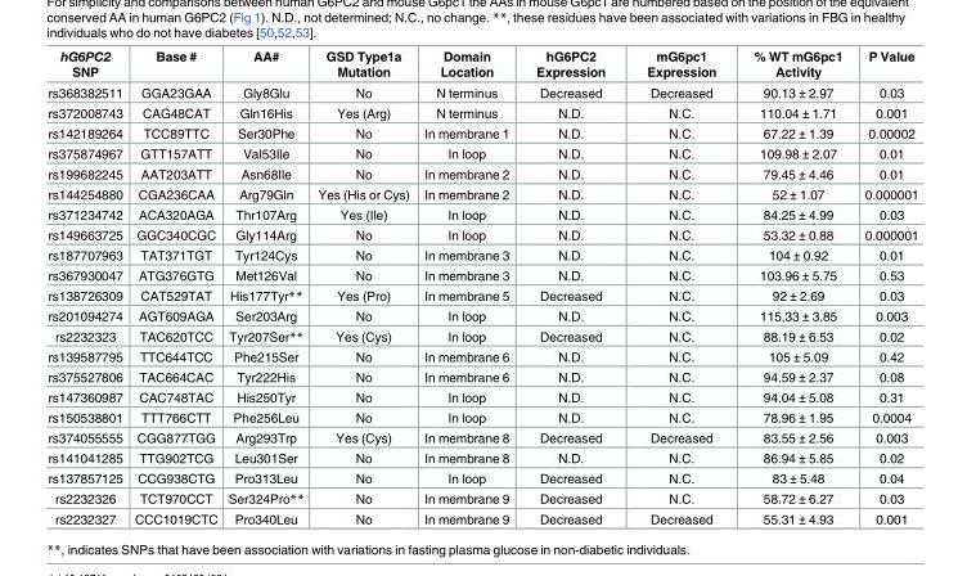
<table><thead><tr><td>hG6PC2 SNP</td><td>Base #</td><td>AA#</td><td>GSD Type1a Mutation</td><td>Domain Location</td><td>hG6PC2 Expression</td><td>mG6pc1 Expression</td><td>% WT mG6pc1 Activity</td><td>P Value</td></tr></thead><tbody><tr><td>rs368382511</td><td>GGA23GAA</td><td>Gly8Glu</td><td>No</td><td>N terminus</td><td>Decreased</td><td>Decreased</td><td>90.13 ± 2.97</td><td>0.03</td></tr><tr><td>rs372008743</td><td>CAG48CAT</td><td>Gln16His</td><td>Yes (Arg)</td><td>N terminus</td><td>N.D.</td><td>N.C.</td><td>110.04 ± 1.71</td><td>0.001</td></tr><tr><td>rs142189264</td><td>TCC89TTC</td><td>Ser30Phe</td><td>No</td><td>In membrane 1</td><td>N.D.</td><td>N.C.</td><td>67.22 ± 1.39</td><td>0.00002</td></tr><tr><td>rs375874967</td><td>GTT157ATT</td><td>Val53Ile</td><td>No</td><td>In loop</td><td>N.D.</td><td>N.C.</td><td>109.98 ± 2.07</td><td>0.01</td></tr><tr><td>rs199682245</td><td>AAT203ATT</td><td>Asn68Ile</td><td>No</td><td>In membrane 2</td><td>N.D.</td><td>N.C.</td><td>79.45 ± 4.46</td><td>0.01</td></tr><tr><td>rs144254880</td><td>CGA236CAA</td><td>Arg79Gln</td><td>Yes (His or Cys)</td><td>In membrane 2</td><td>N.D.</td><td>N.C.</td><td>52 ± 1.07</td><td>0.000001</td></tr><tr><td>rs371234742</td><td>ACA320AGA</td><td>Thr107Arg</td><td>Yes (Ile)</td><td>In loop</td><td>N.D.</td><td>N.C.</td><td>84.25 ± 4.99</td><td>0.03</td></tr><tr><td>rs149663725</td><td>GGC340CGC</td><td>Gly114Arg</td><td>No</td><td>In loop</td><td>N.D.</td><td>N.C.</td><td>53.32 ± 0.88</td><td>0.000001</td></tr><tr><td>rs187707963</td><td>TAT371TGT</td><td>Tyr124Cys</td><td>No</td><td>In membrane 3</td><td>N.D.</td><td>N.C.</td><td>104 ± 0.92</td><td>0.01</td></tr><tr><td>rs367930047</td><td>ATG376GTG</td><td>Met126Val</td><td>No</td><td>In membrane 3</td><td>N.D.</td><td>N.C.</td><td>103.96 ± 5.75</td><td>0.53</td></tr><tr><td>rs138726309</td><td>CAT529TAT</td><td>His177Tyr**</td><td>Yes (Pro)</td><td>In membrane 5</td><td>Decreased</td><td>N.C.</td><td>92 ± 2.69</td><td>0.03</td></tr><tr><td>rs201094274</td><td>AGT609AGA</td><td>Ser203Arg</td><td>No</td><td>In loop</td><td>N.D.</td><td>N.C.</td><td>115.33 ± 3.85</td><td>0.003</td></tr><tr><td>rs2232323</td><td>TAC620TCC</td><td>Tyr207Ser**</td><td>Yes (Cys)</td><td>In loop</td><td>Decreased</td><td>N.C.</td><td>88.19 ± 6.53</td><td>0.02</td></tr><tr><td>rs139587795</td><td>TTC644TCC</td><td>Phe215Ser</td><td>No</td><td>In membrane 6</td><td>N.D.</td><td>N.C.</td><td>105 ± 5.09</td><td>0.42</td></tr><tr><td>rs375527806</td><td>TAC664CAC</td><td>Tyr222His</td><td>No</td><td>In membrane 6</td><td>N.D.</td><td>N.C.</td><td>94.59 ± 2.37</td><td>0.08</td></tr><tr><td>rs147360987</td><td>CAC748TAC</td><td>His250Tyr</td><td>No</td><td>In loop</td><td>N.D.</td><td>N.C.</td><td>94.04 ± 5.08</td><td>0.31</td></tr><tr><td>rs150538801</td><td>TTT766CTT</td><td>Phe256Leu</td><td>No</td><td>In loop</td><td>N.D.</td><td>N.C.</td><td>78.96 ± 1.95</td><td>0.0004</td></tr><tr><td>rs374055555</td><td>CGG877TGG</td><td>Arg293Trp</td><td>Yes (Cys)</td><td>In membrane 8</td><td>Decreased</td><td>Decreased</td><td>83.55 ± 2.56</td><td>0.003</td></tr><tr><td>rs141041285</td><td>TTG902TCG</td><td>Leu301Ser</td><td>No</td><td>In membrane 8</td><td>N.D.</td><td>N.C.</td><td>86.94 ± 5.85</td><td>0.02</td></tr><tr><td>rs137857125</td><td>CCG938CTG</td><td>Pro313Leu</td><td>No</td><td>In loop</td><td>Decreased</td><td>N.C.</td><td>83 ± 5.48</td><td>0.04</td></tr><tr><td>rs2232326</td><td>TCT970CCT</td><td>Ser324Pro**</td><td>No</td><td>In membrane 9</td><td>Decreased</td><td>N.C.</td><td>58.72 ± 6.27</td><td>0.03</td></tr><tr><td>rs2232327</td><td>CCC1019CTC</td><td>Pro340Leu</td><td>No</td><td>In membrane 9</td><td>Decreased</td><td>Decreased</td><td>55.31 ± 4.93</td><td>0.001</td></tr></tbody></table>